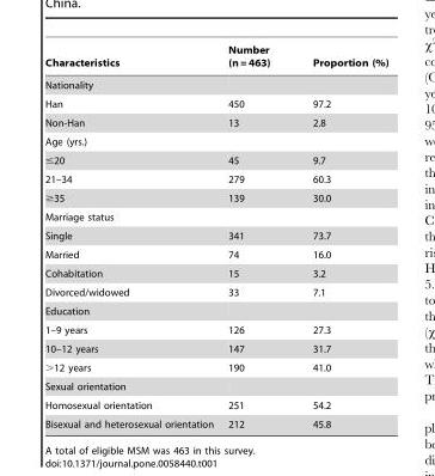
<table><thead><tr><td>Characteristics</td><td>Number (n = 463)</td><td>Proportion (%)</td></tr></thead><tbody><tr><td colspan="3">Nationality</td></tr><tr><td>Han</td><td>450</td><td>97.2</td></tr><tr><td>Non-Han</td><td>13</td><td>2.8</td></tr><tr><td colspan="3">Age (yrs.)</td></tr><tr><td>≤20</td><td>45</td><td>9.7</td></tr><tr><td>21–34</td><td>279</td><td>60.3</td></tr><tr><td>≥35</td><td>139</td><td>30.0</td></tr><tr><td colspan="3">Marriage status</td></tr><tr><td>Single</td><td>341</td><td>73.7</td></tr><tr><td>Married</td><td>74</td><td>16.0</td></tr><tr><td>Cohabitation</td><td>15</td><td>3.2</td></tr><tr><td>Divorced/widowed</td><td>33</td><td>7.1</td></tr><tr><td colspan="3">Education</td></tr><tr><td>1–9 years</td><td>126</td><td>27.3</td></tr><tr><td>10–12 years</td><td>147</td><td>31.7</td></tr><tr><td>&gt;12 years</td><td>190</td><td>41.0</td></tr><tr><td colspan="3">Sexual orientation</td></tr><tr><td>Homosexual orientation</td><td>251</td><td>54.2</td></tr><tr><td>Bisexual and heterosexual orientation</td><td>212</td><td>45.8</td></tr></tbody></table>